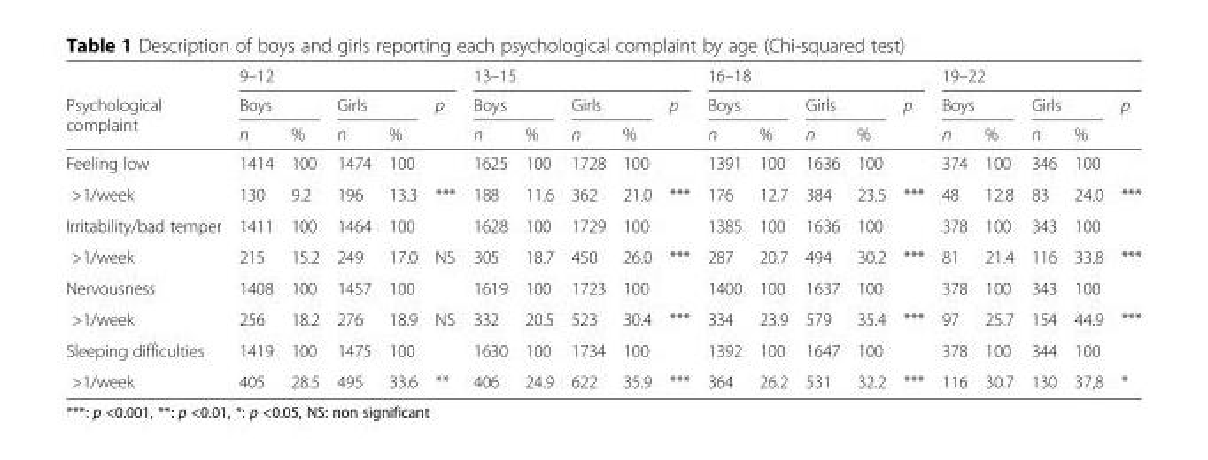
<table><thead><tr><td rowspan="3">Psychological complaint</td><td colspan="5">9–12</td><td colspan="5">13–15</td><td colspan="5">16–18</td><td colspan="5">19–22</td></tr><tr><td colspan="2">Boys</td><td colspan="2">Girls</td><td rowspan="2">p</td><td colspan="2">Boys</td><td colspan="2">Girls</td><td rowspan="2">p</td><td colspan="2">Boys</td><td colspan="2">Girls</td><td rowspan="2">p</td><td colspan="2">Boys</td><td colspan="2">Girls</td><td rowspan="2">p</td></tr><tr><td>n</td><td>%</td><td>n</td><td>%</td><td>n</td><td>%</td><td>n</td><td>%</td><td>n</td><td>%</td><td>n</td><td>%</td><td>n</td><td>%</td><td>n</td><td>%</td></tr></thead><tbody><tr><td>Feeling low</td><td>1414</td><td>100</td><td>1474</td><td>100</td><td></td><td>1625</td><td>100</td><td>1728</td><td>100</td><td></td><td>1391</td><td>100</td><td>1636</td><td>100</td><td></td><td>374</td><td>100</td><td>346</td><td>100</td><td></td></tr><tr><td>&gt;1/week</td><td>130</td><td>9.2</td><td>196</td><td>13.3</td><td>***</td><td>188</td><td>11.6</td><td>362</td><td>21.0</td><td>***</td><td>176</td><td>12.7</td><td>384</td><td>23.5</td><td>***</td><td>48</td><td>12.8</td><td>83</td><td>24.0</td><td>***</td></tr><tr><td>Irritability/bad temper</td><td>1411</td><td>100</td><td>1464</td><td>100</td><td></td><td>1628</td><td>100</td><td>1729</td><td>100</td><td></td><td>1385</td><td>100</td><td>1636</td><td>100</td><td></td><td>378</td><td>100</td><td>343</td><td>100</td><td></td></tr><tr><td>&gt;1/week</td><td>215</td><td>15.2</td><td>249</td><td>17.0</td><td>NS</td><td>305</td><td>18.7</td><td>450</td><td>26.0</td><td>***</td><td>287</td><td>20.7</td><td>494</td><td>30.2</td><td>***</td><td>81</td><td>21.4</td><td>116</td><td>33.8</td><td>***</td></tr><tr><td>Nervousness</td><td>1408</td><td>100</td><td>1457</td><td>100</td><td></td><td>1619</td><td>100</td><td>1723</td><td>100</td><td></td><td>1400</td><td>100</td><td>1637</td><td>100</td><td></td><td>378</td><td>100</td><td>343</td><td>100</td><td></td></tr><tr><td>&gt;1/week</td><td>256</td><td>18.2</td><td>276</td><td>18.9</td><td>NS</td><td>332</td><td>20.5</td><td>523</td><td>30.4</td><td>***</td><td>334</td><td>23.9</td><td>579</td><td>35.4</td><td>***</td><td>97</td><td>25.7</td><td>154</td><td>44.9</td><td>***</td></tr><tr><td>Sleeping difficulties</td><td>1419</td><td>100</td><td>1475</td><td>100</td><td></td><td>1630</td><td>100</td><td>1734</td><td>100</td><td></td><td>1392</td><td>100</td><td>1647</td><td>100</td><td></td><td>378</td><td>100</td><td>344</td><td>100</td><td></td></tr><tr><td>&gt;1/week</td><td>405</td><td>28.5</td><td>495</td><td>33.6</td><td>**</td><td>406</td><td>24.9</td><td>622</td><td>35.9</td><td>***</td><td>364</td><td>26.2</td><td>531</td><td>32.2</td><td>***</td><td>116</td><td>30.7</td><td>130</td><td>37,8</td><td>*</td></tr></tbody></table>